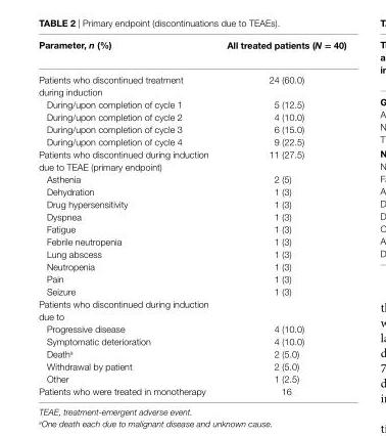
<table><thead><tr><td>Parameter, n (%)</td><td>all treated patients (N = 40)</td></tr></thead><tbody><tr><td>Patients who discontinued treatment during induction</td><td>24 (60.0)</td></tr><tr><td>During/upon completion of cycle 1</td><td>5 (12.5)</td></tr><tr><td>During/upon completion of cycle 2</td><td>4 (10.0)</td></tr><tr><td>During/upon completion of cycle 3</td><td>6 (15.0)</td></tr><tr><td>During/upon completion of cycle 4</td><td>9 (22.5)</td></tr><tr><td>Patients who discontinued during induction due to TEAE (primary endpoint)</td><td>11 (27.5)</td></tr><tr><td>Asthenia</td><td>2 (5)</td></tr><tr><td>Dehydration</td><td>1 (3)</td></tr><tr><td>Drug hypersensitivity</td><td>1 (3)</td></tr><tr><td>Dyspnea</td><td>1 (3)</td></tr><tr><td>Fatigue</td><td>1 (3)</td></tr><tr><td>Febrile neutropenia</td><td>1 (3)</td></tr><tr><td>Lung abscess</td><td>1 (3)</td></tr><tr><td>Neutropenia</td><td>1 (3)</td></tr><tr><td>Pain</td><td>1 (3)</td></tr><tr><td>Seizure</td><td>1 (3)</td></tr><tr><td colspan="2">Patients who discontinued during induction due to</td></tr><tr><td>Progressive disease</td><td>4 (10.0)</td></tr><tr><td>Symptomatic deterioration</td><td>4 (10.0)</td></tr><tr><td>Death<sup>a</sup></td><td>2 (5.0)</td></tr><tr><td>Withdrawal by patient</td><td>2 (5.0)</td></tr><tr><td>Other</td><td>1 (2.5)</td></tr><tr><td>Patients who were treated in monotherapy</td><td>16</td></tr></tbody></table>